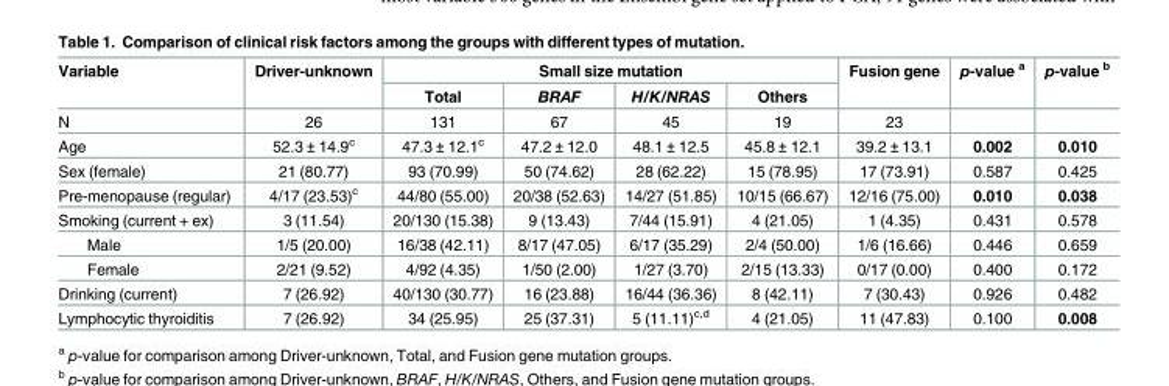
<table><thead><tr><td rowspan="2">Variable</td><td rowspan="2">Driver-unknown</td><td colspan="4">Small size mutation</td><td rowspan="2">Fusion gene</td><td rowspan="2">p-value <sup>a</sup></td><td rowspan="2">p-value <sup>b</sup></td></tr><tr><td>Total</td><td>BRAF</td><td>H/K/NRAS</td><td>Others</td></tr></thead><tbody><tr><td>N</td><td>26</td><td>131</td><td>67</td><td>45</td><td>19</td><td>23</td><td></td><td></td></tr><tr><td>Age</td><td>52.3 ± 14.9<sup>c</sup></td><td>47.3 ± 12.1<sup>c</sup></td><td>47.2 ± 12.0</td><td>48.1 ± 12.5</td><td>45.8 ± 12.1</td><td>39.2 ± 13.1</td><td>0.002</td><td>0.010</td></tr><tr><td>Sex (female)</td><td>21 (80.77)</td><td>93 (70.99)</td><td>50 (74.62)</td><td>28 (62.22)</td><td>15 (78.95)</td><td>17 (73.91)</td><td>0.587</td><td>0.425</td></tr><tr><td>Pre-menopause (regular)</td><td>4/17 (23.53)<sup>c</sup></td><td>44/80 (55.00)</td><td>20/38 (52.63)</td><td>14/27 (51.85)</td><td>10/15 (66.67)</td><td>12/16 (75.00)</td><td>0.010</td><td>0.038</td></tr><tr><td>Smoking (current + ex)</td><td>3 (11.54)</td><td>20/130 (15.38)</td><td>9 (13.43)</td><td>7/44 (15.91)</td><td>4 (21.05)</td><td>1 (4.35)</td><td>0.431</td><td>0.578</td></tr><tr><td>Male</td><td>1/5 (20.00)</td><td>16/38 (42.11)</td><td>8/17 (47.05)</td><td>6/17 (35.29)</td><td>2/4 (50.00)</td><td>1/6 (16.66)</td><td>0.446</td><td>0.659</td></tr><tr><td>Female</td><td>2/21 (9.52)</td><td>4/92 (4.35)</td><td>1/50 (2.00)</td><td>1/27 (3.70)</td><td>2/15 (13.33)</td><td>0/17 (0.00)</td><td>0.400</td><td>0.172</td></tr><tr><td>Drinking (current)</td><td>7 (26.92)</td><td>40/130 (30.77)</td><td>16 (23.88)</td><td>16/44 (36.36)</td><td>8 (42.11)</td><td>7 (30.43)</td><td>0.926</td><td>0.482</td></tr><tr><td>Lymphocytic thyroiditis</td><td>7 (26.92)</td><td>34 (25.95)</td><td>25 (37.31)</td><td>5 (11.11)<sup>c,d</sup></td><td>4 (21.05)</td><td>11 (47.83)</td><td>0.100</td><td>0.008</td></tr></tbody></table>